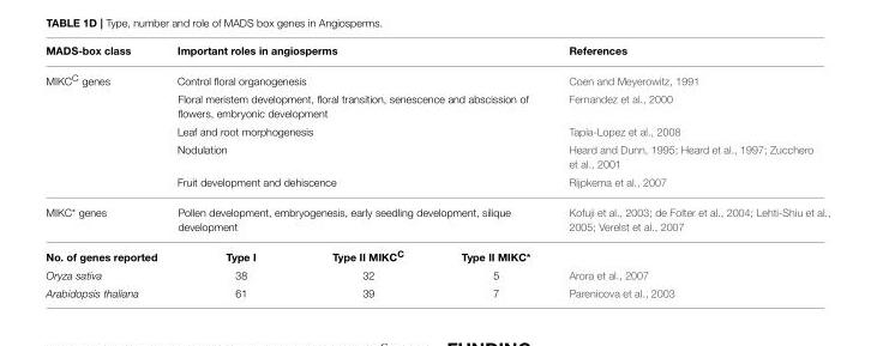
<table><thead><tr><td>MADS-box class</td><td colspan="3">Important roles in angiosperms</td><td>References</td></tr></thead><tbody><tr><td rowspan="5">MIKC<sup>C</sup> genes</td><td colspan="3">Control floral organogenesis</td><td>Coen and Meyerowitz, 1991</td></tr><tr><td colspan="3">Floral meristem development, floral transition, senescence and abscission of flowers, embryonic development</td><td>Fernandez et al., 2000</td></tr><tr><td colspan="3">Leaf and root morphogenesis</td><td>Tapia-Lopez et al., 2008</td></tr><tr><td colspan="3">Nodulation</td><td>Heard and Dunn, 1995; Heard et al., 1997; Zucchero et al., 2001</td></tr><tr><td colspan="3">Fruit development and dehiscence</td><td>Rijpkema et al., 2007</td></tr><tr><td>MIKC* genes</td><td colspan="3">Pollen development, embryogenesis, early seedling development, silique development</td><td>Kofuji et al., 2003; de Folter et al., 2004; Lehti-Shiu et al., 2005; Verelst et al., 2007</td></tr><tr><td>No. of genes reported</td><td>Type I</td><td>Type II MIKC<sup>C</sup></td><td>Type II MIKC*</td><td></td></tr><tr><td>Oryza sativa</td><td>38</td><td>32</td><td>5</td><td>Arora et al., 2007</td></tr><tr><td>Arabidopsis thaliana</td><td>61</td><td>39</td><td>7</td><td>Parenicova et al., 2003</td></tr></tbody></table>